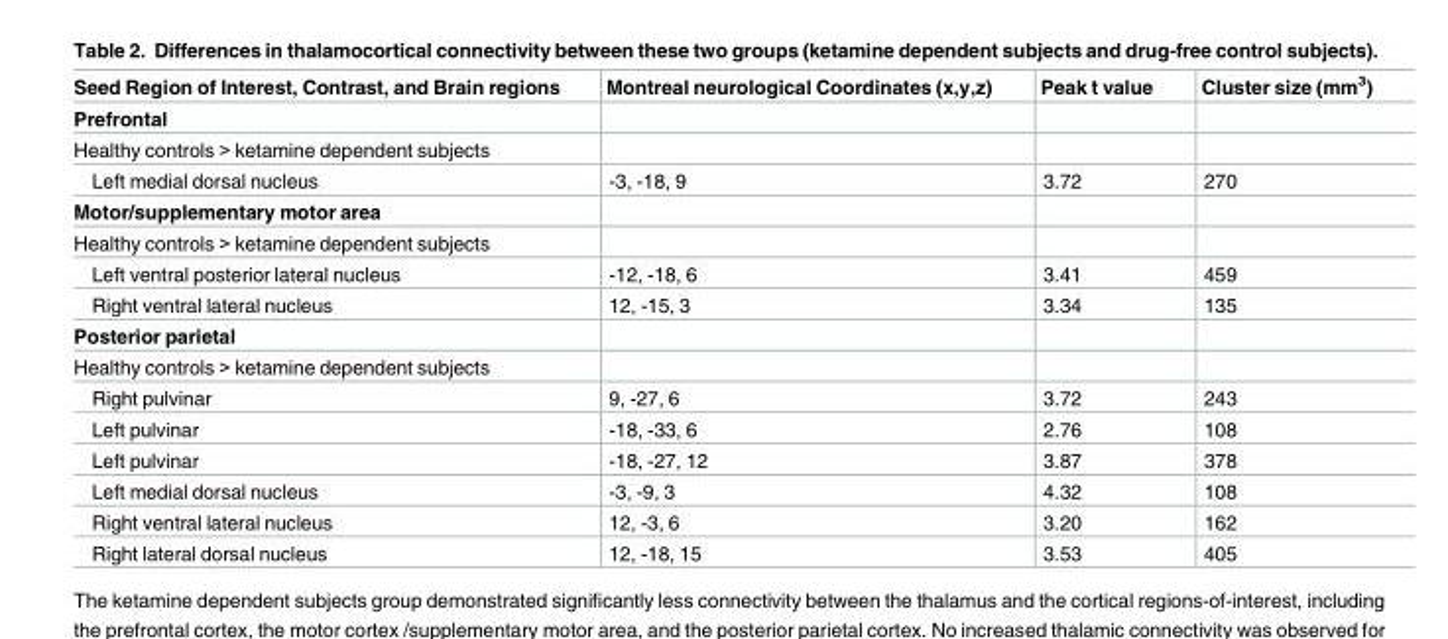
<table><thead><tr><td>Seed Region of Interest, Contrast, and Brain regions</td><td>Montreal neurological Coordinates (x,y,z)</td><td>Peak t value</td><td>Cluster size (mm<sup>3</sup>)</td></tr></thead><tbody><tr><td colspan="4">Prefrontal</td></tr><tr><td colspan="4">Healthy controls &gt; ketamine dependent subjects</td></tr><tr><td>Left medial dorsal nucleus</td><td>-3, -18, 9</td><td>3.72</td><td>270</td></tr><tr><td colspan="4">Motor/supplementary motor area</td></tr><tr><td colspan="4">Healthy controls &gt; ketamine dependent subjects</td></tr><tr><td>Left ventral posterior lateral nucleus</td><td>-12, -18, 6</td><td>3.41</td><td>459</td></tr><tr><td>Right ventral lateral nucleus</td><td>12, -15, 3</td><td>3.34</td><td>135</td></tr><tr><td colspan="4">Posterior parietal</td></tr><tr><td colspan="4">Healthy controls &gt; ketamine dependent subjects</td></tr><tr><td>Right pulvinar</td><td>9, -27, 6</td><td>3.72</td><td>243</td></tr><tr><td>Left pulvinar</td><td>-18, -33, 6</td><td>2.76</td><td>108</td></tr><tr><td>Left pulvinar</td><td>-18, -27, 12</td><td>3.87</td><td>378</td></tr><tr><td>Left medial dorsal nucleus</td><td>-3, -9, 3</td><td>4.32</td><td>108</td></tr><tr><td>Right ventral lateral nucleus</td><td>12, -3, 6</td><td>3.20</td><td>162</td></tr><tr><td>Right lateral dorsal nucleus</td><td>12, -18, 15</td><td>3.53</td><td>405</td></tr></tbody></table>